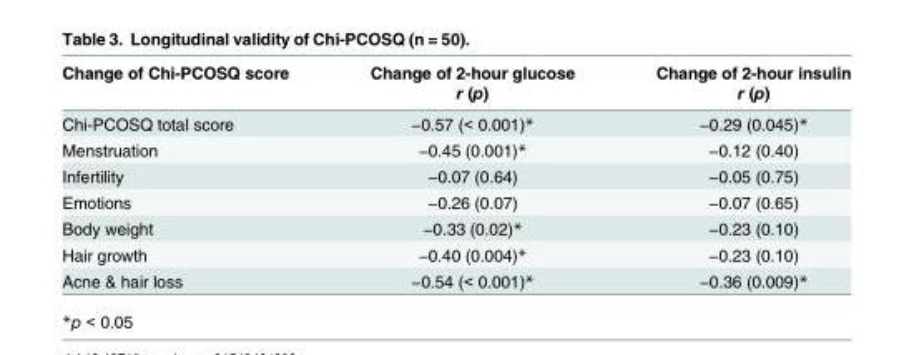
<table><thead><tr><td rowspan="2">Change of Chi-PCOSQ score</td><td rowspan="2">Change of 2-hour glucose r (p)</td><td rowspan="2">Change of 2-hour insulin r (p)</td></tr><tr></tr></thead><tbody><tr><td>Chi-PCOSQ total score</td><td>−0.57 (&lt; 0.001)*</td><td>−0.29 (0.045)*</td></tr><tr><td>Menstruation</td><td>−0.45 (0.001)*</td><td>−0.12 (0.40)</td></tr><tr><td>Infertility</td><td>−0.07 (0.64)</td><td>−0.05 (0.75)</td></tr><tr><td>Emotions</td><td>−0.26 (0.07)</td><td>−0.07 (0.65)</td></tr><tr><td>Body weight</td><td>−0.33 (0.02)*</td><td>−0.23 (0.10)</td></tr><tr><td>Hair growth</td><td>−0.40 (0.004)*</td><td>−0.23 (0.10)</td></tr><tr><td>Acne &amp; hair loss</td><td>−0.54 (&lt; 0.001)*</td><td>−0.36 (0.009)*</td></tr></tbody></table>